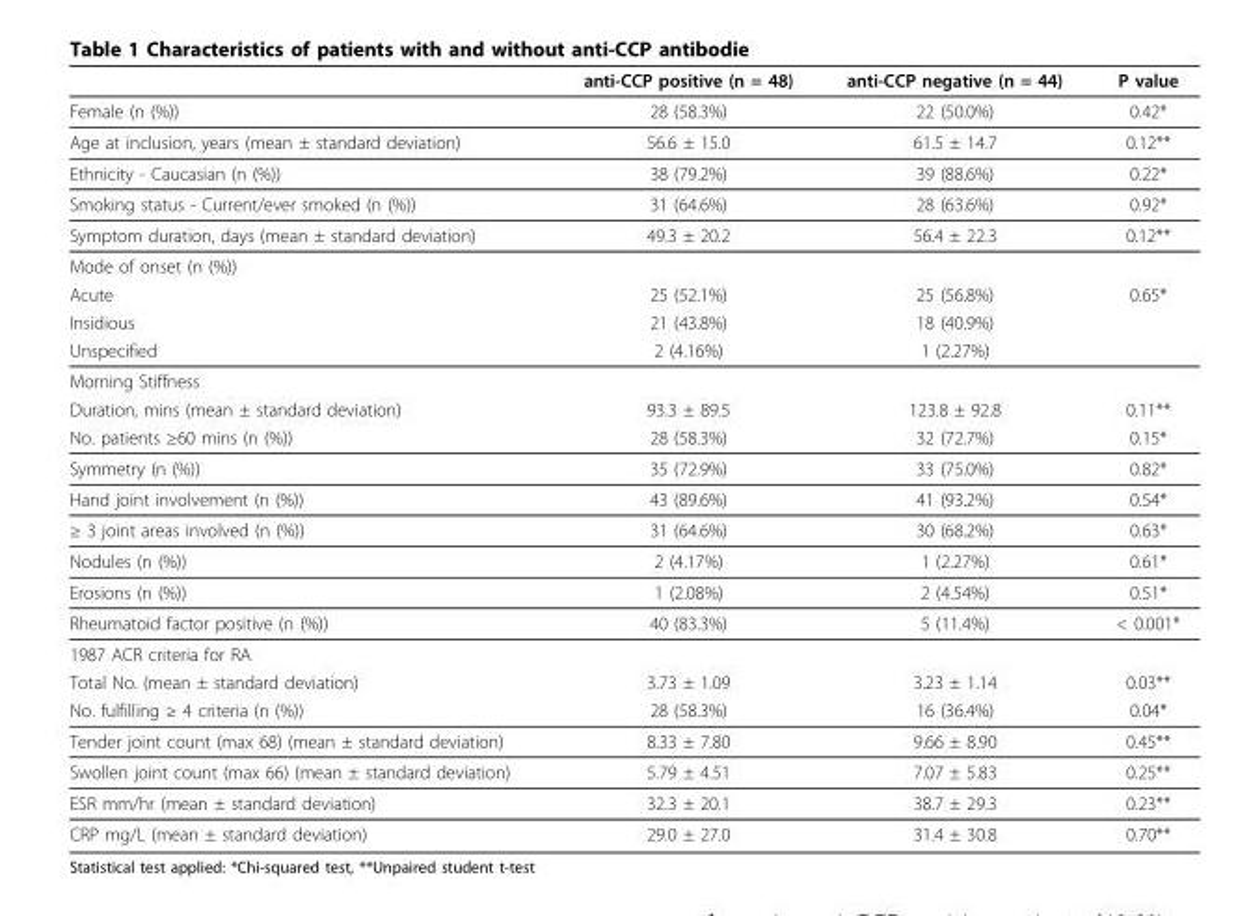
<table><thead><tr><td></td><td>anti-CCP positive (n = 48)</td><td>anti-CCP negative (n = 44)</td><td>P value</td></tr></thead><tbody><tr><td>Female (n (%))</td><td>28 (58.3%)</td><td>22 (50.0%)</td><td>0.42*</td></tr><tr><td>Age at inclusion, years (mean ± standard deviation)</td><td>56.6 ± 15.0</td><td>61.5 ± 14.7</td><td>0.12**</td></tr><tr><td>Ethnicity - Caucasian (n (%))</td><td>38 (79.2%)</td><td>39 (88.6%)</td><td>0.22*</td></tr><tr><td>Smoking status - Current/ever smoked (n (%))</td><td>31 (64.6%)</td><td>28 (63.6%)</td><td>0.92*</td></tr><tr><td>Symptom duration, days (mean ± standard deviation)</td><td>49.3 ± 20.2</td><td>56.4 ± 22.3</td><td>0.12**</td></tr><tr><td colspan="4">Mode of onset (n (%))</td></tr><tr><td>Acute</td><td>25 (52.1%)</td><td>25 (56.8%)</td><td>0.65*</td></tr><tr><td>Insidious</td><td>21 (43.8%)</td><td>18 (40.9%)</td><td></td></tr><tr><td>Unspecified</td><td>2 (4.16%)</td><td>1 (2.27%)</td><td></td></tr><tr><td colspan="4">Morning Stiffness</td></tr><tr><td>Duration, mins (mean ± standard deviation)</td><td>93.3 ± 89.5</td><td>123.8 ± 92.8</td><td>0.11**</td></tr><tr><td>No. patients ≥60 mins (n (%))</td><td>28 (58.3%)</td><td>32 (72.7%)</td><td>0.15*</td></tr><tr><td>Symmetry (n (%))</td><td>35 (72.9%)</td><td>33 (75.0%)</td><td>0.82*</td></tr><tr><td>Hand joint involvement (n (%))</td><td>43 (89.6%)</td><td>41 (93.2%)</td><td>0.54*</td></tr><tr><td>≥ 3 joint areas involved (n (%))</td><td>31 (64.6%)</td><td>30 (68.2%)</td><td>0.63*</td></tr><tr><td>Nodules (n (%))</td><td>2 (4.17%)</td><td>1 (2.27%)</td><td>0.61*</td></tr><tr><td>Erosions (n (%))</td><td>1 (2.08%)</td><td>2 (4.54%)</td><td>0.51*</td></tr><tr><td>Rheumatoid factor positive (n (%))</td><td>40 (83.3%)</td><td>5 (11.4%)</td><td>&lt; 0.001*</td></tr><tr><td colspan="4">1987 ACR criteria for RA</td></tr><tr><td>Total No. (mean ± standard deviation)</td><td>3.73 ± 1.09</td><td>3.23 ± 1.14</td><td>0.03**</td></tr><tr><td>No. fulfilling ≥ 4 criteria (n (%))</td><td>28 (58.3%)</td><td>16 (36.4%)</td><td>0.04*</td></tr><tr><td>Tender joint count (max 68) (mean ± standard deviation)</td><td>8.33 ± 7.80</td><td>9.66 ± 8.90</td><td>0.45**</td></tr><tr><td>Swollen joint count (max 66) (mean ± standard deviation)</td><td>5.79 ± 4.51</td><td>7.07 ± 5.83</td><td>0.25**</td></tr><tr><td>ESR mm/hr (mean ± standard deviation)</td><td>32.3 ± 20.1</td><td>38.7 ± 29.3</td><td>0.23**</td></tr><tr><td>CRP mg/L (mean ± standard deviation)</td><td>29.0 ± 27.0</td><td>31.4 ± 30.8</td><td>0.70**</td></tr></tbody></table>